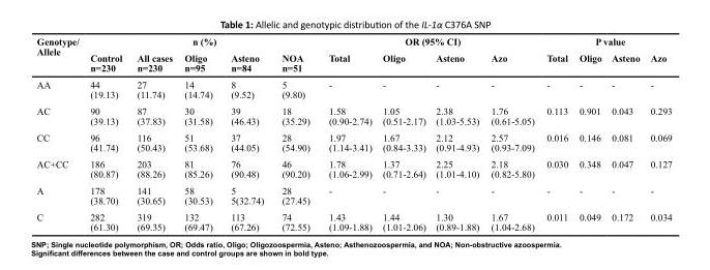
<table><thead><tr><td rowspan="2">Genotype/ Allele</td><td colspan="5">n (%)</td><td colspan="4">OR (95% CI)</td><td colspan="4">P value</td></tr><tr><td>Control n=230</td><td>All cases n=230</td><td>Oligo n=95</td><td>Asteno n=84</td><td>NOA n=51</td><td>Total</td><td>Oligo</td><td>Asteno</td><td>Azo</td><td>Total</td><td>Oligo</td><td>Asteno</td><td>Azo</td></tr></thead><tbody><tr><td>AA</td><td>44 (19.13)</td><td>27 (11.74)</td><td>14 (14.74)</td><td>8 (9.52)</td><td>5 (9.80)</td><td>-</td><td>-</td><td>-</td><td>-</td><td>-</td><td>-</td><td>-</td><td>-</td></tr><tr><td>AC</td><td>90 (39.13)</td><td>87 (37.83)</td><td>30 (31.58)</td><td>39 (46.43)</td><td>18 (35.29)</td><td>1.58 (0.90-2.74)</td><td>1.05 (0.51-2.17)</td><td>2.38 (1.03-5.53)</td><td>1.76 (0.61-5.05)</td><td>0.113</td><td>0.901</td><td>0.043</td><td>0.293</td></tr><tr><td>CC</td><td>96 (41.74)</td><td>116 (50.43)</td><td>51 (53.68)</td><td>37 (44.05)</td><td>28 (54.90)</td><td>1.97 (1.14-3.41)</td><td>1.67 (0.84-3.33)</td><td>2.12 (0.91-4.93)</td><td>2.57 (0.93-7.09)</td><td>0.016</td><td>0.146</td><td>0.081</td><td>0.069</td></tr><tr><td>AC+CC</td><td>186 (80.87)</td><td>203 (88.26)</td><td>81 (85.26)</td><td>76 (90.48)</td><td>46 (90.20)</td><td>1.78 (1.06-2.99)</td><td>1.37 (0.71-2.64)</td><td>2.25 (1.01-4.10)</td><td>2.18 (0.82-5.80)</td><td>0.030</td><td>0.348</td><td>0.047</td><td>0.127</td></tr><tr><td>A</td><td>178 (38.70)</td><td>141 (30.65)</td><td>58 (30.53)</td><td>5 5(32.74)</td><td>28 (27.45)</td><td>-</td><td>-</td><td>-</td><td>-</td><td>-</td><td>-</td><td>-</td><td>-</td></tr><tr><td>C</td><td>282 (61.30)</td><td>319 (69.35)</td><td>132 (69.47)</td><td>113 (67.26)</td><td>74 (72.55)</td><td>1.43 (1.09-1.88)</td><td>1.44 (1.01-2.06)</td><td>1.30 (0.89-1.88)</td><td>1.67 (1.04-2.68)</td><td>0.011</td><td>0.049</td><td>0.172</td><td>0.034</td></tr></tbody></table>